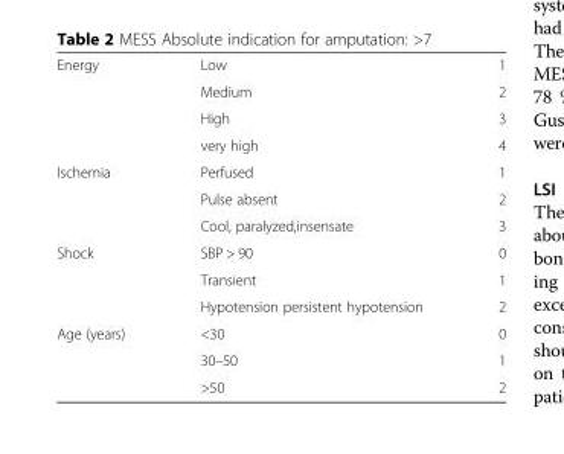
<table><tbody><tr><td rowspan="4">Energy</td><td>Low</td><td>1</td></tr><tr><td>Medium</td><td>2</td></tr><tr><td>High</td><td>3</td></tr><tr><td>very high</td><td>4</td></tr><tr><td rowspan="3">Ischemia</td><td>Perfused</td><td>1</td></tr><tr><td>Pulse absent</td><td>2</td></tr><tr><td>Cool, paralyzed,insensate</td><td>3</td></tr><tr><td rowspan="3">Shock</td><td>SBP &gt; 90</td><td>0</td></tr><tr><td>Transient</td><td>1</td></tr><tr><td>Hypotension persistent hypotension</td><td>2</td></tr><tr><td rowspan="3">Age (years)</td><td>&lt;30</td><td>0</td></tr><tr><td>30–50</td><td>1</td></tr><tr><td>&gt;50</td><td>2</td></tr></tbody></table>